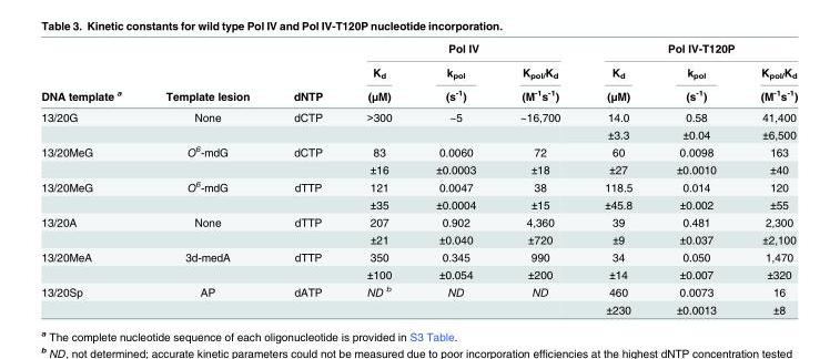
<table><thead><tr><td rowspan="3">DNA template <sup>a</sup></td><td rowspan="3">Template lesion</td><td rowspan="3">dNTP</td><td colspan="3">Pol IV</td><td colspan="3">Pol IV-T120P</td></tr><tr><td rowspan="2">K<sub>d</sub> (μM)</td><td rowspan="2">k<sub>pol</sub> (s<sup>-1</sup>)</td><td rowspan="2">K<sub>pol/</sub>K<sub>d</sub> (M<sup>-1</sup>s<sup>-1</sup>)</td><td rowspan="2">K<sub>d</sub> (μM)</td><td rowspan="2">k<sub>pol</sub> (s<sup>-1</sup>)</td><td rowspan="2">K<sub>pol/</sub>K<sub>d</sub> (M<sup>-1</sup>s<sup>-1</sup>)</td></tr><tr></tr></thead><tbody><tr><td rowspan="2">13/20G</td><td>None</td><td>dCTP</td><td>&gt;300</td><td>~5</td><td>~16,700</td><td>14.0</td><td>0.58</td><td>41,400</td></tr><tr><td></td><td></td><td></td><td></td><td></td><td>±3.3</td><td>±0.04</td><td>±6,500</td></tr><tr><td rowspan="2">13/20MeG</td><td>O<sup>6</sup>-mdG</td><td>dCTP</td><td>83</td><td>0.0060</td><td>72</td><td>60</td><td>0.0098</td><td>163</td></tr><tr><td></td><td></td><td>±16</td><td>±0.0003</td><td>±18</td><td>±27</td><td>±0.0010</td><td>±40</td></tr><tr><td rowspan="2">13/20MeG</td><td>O<sup>6</sup>-mdG</td><td>dTTP</td><td>121</td><td>0.0047</td><td>38</td><td>118.5</td><td>0.014</td><td>120</td></tr><tr><td></td><td></td><td>±35</td><td>±0.0004</td><td>±15</td><td>±45.8</td><td>±0.002</td><td>±55</td></tr><tr><td rowspan="2">13/20A</td><td>None</td><td>dTTP</td><td>207</td><td>0.902</td><td>4,360</td><td>39</td><td>0.481</td><td>2,300</td></tr><tr><td></td><td></td><td>±21</td><td>±0.040</td><td>±720</td><td>±9</td><td>±0.037</td><td>±2,100</td></tr><tr><td rowspan="2">13/20MeA</td><td>3d-medA</td><td>dTTP</td><td>350</td><td>0.345</td><td>990</td><td>34</td><td>0.050</td><td>1,470</td></tr><tr><td></td><td></td><td>±100</td><td>±0.054</td><td>±200</td><td>±14</td><td>±0.007</td><td>±320</td></tr><tr><td rowspan="2">13/20Sp</td><td>AP</td><td>dATP</td><td>ND <sup>b</sup></td><td>ND</td><td>ND</td><td>460</td><td>0.0073</td><td>16</td></tr><tr><td></td><td></td><td></td><td></td><td></td><td>±230</td><td>±0.0013</td><td>±8</td></tr></tbody></table>